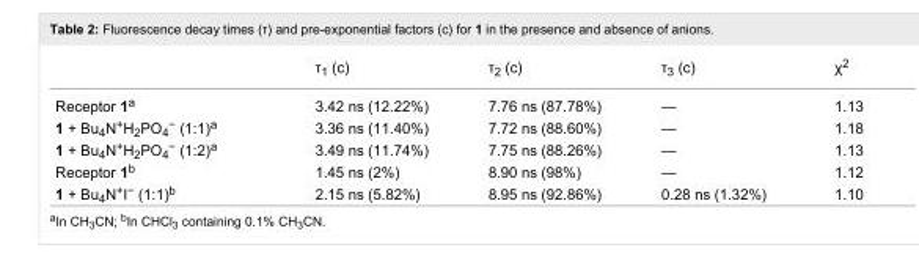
<table><thead><tr><td></td><td>τ<sub>1</sub> (c)</td><td>τ<sub>2</sub> (c)</td><td>τ<sub>3</sub> (c)</td><td>χ<sup>2</sup></td></tr></thead><tbody><tr><td>Receptor 1<sup>a</sup></td><td>3.42 ns (12.22%)</td><td>7.76 ns (87.78%)</td><td>—</td><td>1.13</td></tr><tr><td>1 + Bu<sub>4</sub>N<sup>+</sup>H<sub>2</sub>PO<sub>4</sub><sup>−</sup> (1:1)<sup>a</sup></td><td>3.36 ns (11.40%)</td><td>7.72 ns (88.60%)</td><td>—</td><td>1.18</td></tr><tr><td>1 + Bu<sub>4</sub>N<sup>+</sup>H<sub>2</sub>PO<sub>4</sub><sup>−</sup> (1:2)<sup>a</sup></td><td>3.49 ns (11.74%)</td><td>7.75 ns (88.26%)</td><td>—</td><td>1.13</td></tr><tr><td>Receptor 1<sup>b</sup></td><td>1.45 ns (2%)</td><td>8.90 ns (98%)</td><td>—</td><td>1.12</td></tr><tr><td>1 + Bu<sub>4</sub>N<sup>+</sup>I<sup>−</sup> (1:1)<sup>b</sup></td><td>2.15 ns (5.82%)</td><td>8.95 ns (92.86%)</td><td>0.28 ns (1.32%)</td><td>1.10</td></tr></tbody></table>